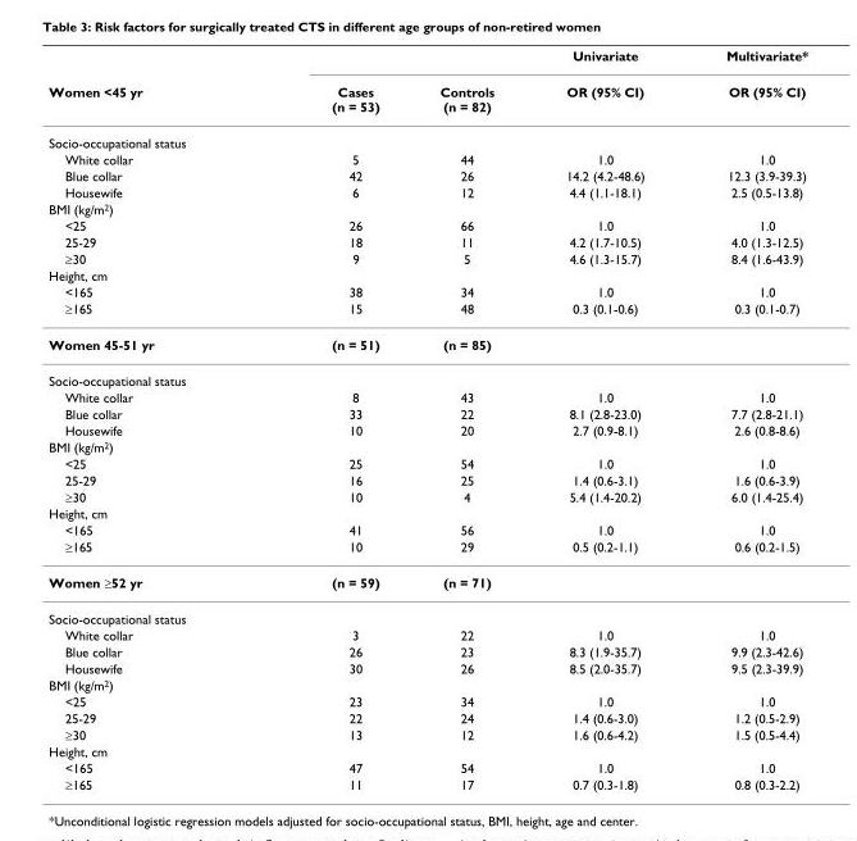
<table><thead><tr><td rowspan="2">Women &lt;45 yr</td><td rowspan="2">Cases (n = 53)</td><td rowspan="2">Controls (n = 82)</td><td rowspan="2">Univariate OR (95% CI)</td><td rowspan="2">Multivariate* OR (95% CI)</td></tr><tr></tr></thead><tbody><tr><td colspan="5">Socio-occupational status</td></tr><tr><td>White collar</td><td>5</td><td>44</td><td>1.0</td><td>1.0</td></tr><tr><td>Blue collar</td><td>42</td><td>26</td><td>14.2 (4.2-48.6)</td><td>12.3 (3.9-39.3)</td></tr><tr><td>Housewife</td><td>6</td><td>12</td><td>4.4 (1.1-18.1)</td><td>2.5 (0.5-13.8)</td></tr><tr><td colspan="5">BMI (kg/m<sup>2</sup>)</td></tr><tr><td>&lt;25</td><td>26</td><td>66</td><td>1.0</td><td>1.0</td></tr><tr><td>25-29</td><td>18</td><td>11</td><td>4.2 (1.7-10.5)</td><td>4.0 (1.3-12.5)</td></tr><tr><td>≥30</td><td>9</td><td>5</td><td>4.6 (1.3-15.7)</td><td>8.4 (1.6-43.9)</td></tr><tr><td colspan="5">Height, cm</td></tr><tr><td>&lt;165</td><td>38</td><td>34</td><td>1.0</td><td>1.0</td></tr><tr><td>≥165</td><td>15</td><td>48</td><td>0.3 (0.1-0.6)</td><td>0.3 (0.1-0.7)</td></tr><tr><td>Women 45-51 yr</td><td>(n = 51)</td><td>(n = 85)</td><td></td><td></td></tr><tr><td colspan="5">Socio-occupational status</td></tr><tr><td>White collar</td><td>8</td><td>43</td><td>1.0</td><td>1.0</td></tr><tr><td>Blue collar</td><td>33</td><td>22</td><td>8.1 (2.8-23.0)</td><td>7.7 (2.8-21.1)</td></tr><tr><td>Housewife</td><td>10</td><td>20</td><td>2.7 (0.9-8.1)</td><td>2.6 (0.8-8.6)</td></tr><tr><td colspan="5">BMI (kg/m<sup>2</sup>)</td></tr><tr><td>&lt;25</td><td>25</td><td>54</td><td>1.0</td><td>1.0</td></tr><tr><td>25-29</td><td>16</td><td>25</td><td>1.4 (0.6-3.1)</td><td>1.6 (0.6-3.9)</td></tr><tr><td>≥30</td><td>10</td><td>4</td><td>5.4 (1.4-20.2)</td><td>6.0 (1.4-25.4)</td></tr><tr><td colspan="5">Height, cm</td></tr><tr><td>&lt;165</td><td>41</td><td>56</td><td>1.0</td><td>1.0</td></tr><tr><td>≥165</td><td>10</td><td>29</td><td>0.5 (0.2-1.1)</td><td>0.6 (0.2-1.5)</td></tr><tr><td>Women ≥52 yr</td><td>(n = 59)</td><td>(n = 71)</td><td></td><td></td></tr><tr><td colspan="5">Socio-occupational status</td></tr><tr><td>White collar</td><td>3</td><td>22</td><td>1.0</td><td>1.0</td></tr><tr><td>Blue collar</td><td>26</td><td>23</td><td>8.3 (1.9-35.7)</td><td>9.9 (2.3-42.6)</td></tr><tr><td>Housewife</td><td>30</td><td>26</td><td>8.5 (2.0-35.7)</td><td>9.5 (2.3-39.9)</td></tr><tr><td colspan="5">BMI (kg/m<sup>2</sup>)</td></tr><tr><td>&lt;25</td><td>23</td><td>34</td><td>1.0</td><td>1.0</td></tr><tr><td>25-29</td><td>22</td><td>24</td><td>1.4 (0.6-3.0)</td><td>1.2 (0.5-2.9)</td></tr><tr><td>≥30</td><td>13</td><td>12</td><td>1.6 (0.6-4.2)</td><td>1.5 (0.5-4.4)</td></tr><tr><td colspan="5">Height, cm</td></tr><tr><td>&lt;165</td><td>47</td><td>54</td><td>1.0</td><td>1.0</td></tr><tr><td>≥165</td><td>11</td><td>17</td><td>0.7 (0.3-1.8)</td><td>0.8 (0.3-2.2)</td></tr></tbody></table>